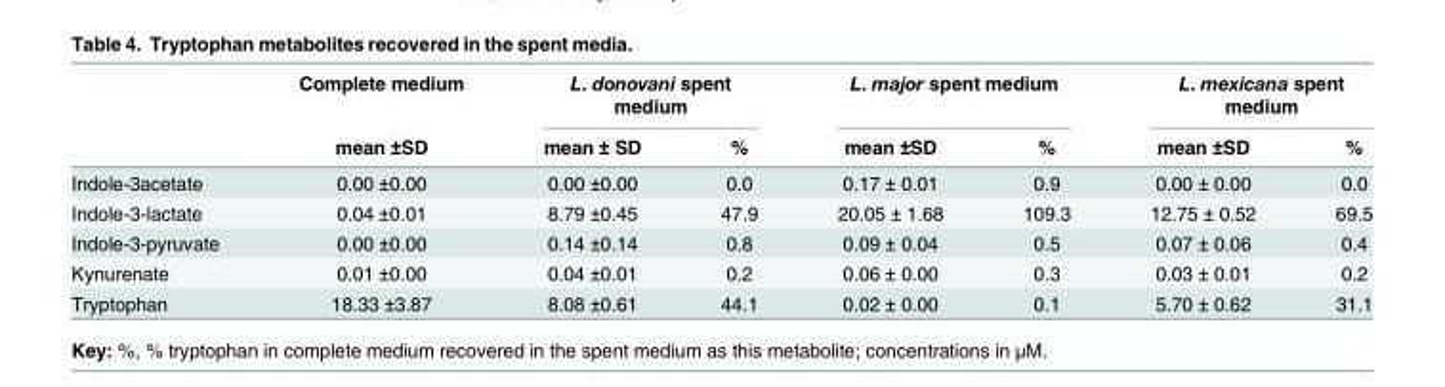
<table><thead><tr><td rowspan="2"></td><td rowspan="2">Complete medium mean ±SD</td><td colspan="2">L. donovani spent medium</td><td colspan="2">L. major spent medium</td><td colspan="2">L. mexicana spent medium</td></tr><tr><td>mean ± SD</td><td>%</td><td>mean ±SD</td><td>%</td><td>mean ±SD</td><td>%</td></tr></thead><tbody><tr><td>Indole-3acetate</td><td>0.00 ±0.00</td><td>0.00 ±0.00</td><td>0.0</td><td>0.17 ± 0.01</td><td>0.9</td><td>0.00 ± 0.00</td><td>0.0</td></tr><tr><td>Indole-3-lactate</td><td>0.04 ±0.01</td><td>8.79 ±0.45</td><td>47.9</td><td>20.05 ± 1.68</td><td>109.3</td><td>12.75 ± 0.52</td><td>69.5</td></tr><tr><td>Indole-3-pyruvate</td><td>0.00 ±0.00</td><td>0.14 ±0.14</td><td>0.8</td><td>0.09 ± 0.04</td><td>0.5</td><td>0.07 ± 0.06</td><td>0.4</td></tr><tr><td>Kynurenate</td><td>0.01 ±0.00</td><td>0.04 ±0.01</td><td>0.2</td><td>0.06 ± 0.00</td><td>0.3</td><td>0.03 ± 0.01</td><td>0.2</td></tr><tr><td>Tryptophan</td><td>18.33 ±3.87</td><td>8.08 ±0.61</td><td>44.1</td><td>0.02 ± 0.00</td><td>0.1</td><td>5.70 ± 0.62</td><td>31.1</td></tr></tbody></table>